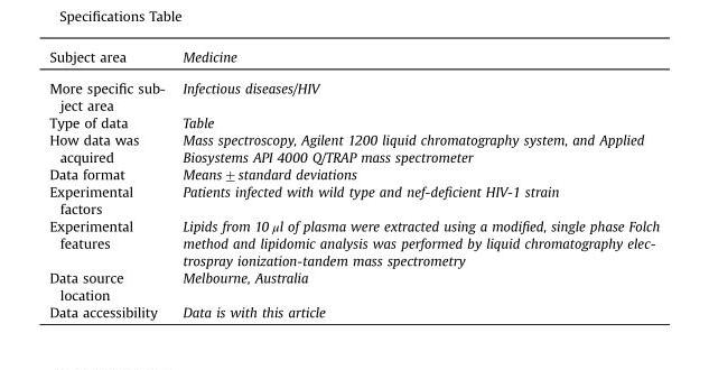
<table><thead><tr><td>Subject area</td><td>Medicine</td></tr></thead><tbody><tr><td>More specific sub- ject area</td><td>Infectious diseases/HIV</td></tr><tr><td>Type of data</td><td>Table</td></tr><tr><td>How data was acquired</td><td>Mass spectroscopy, Agilent 1200 liquid chromatography system, and Applied Biosystems API 4000 Q/TRAP mass spectrometer</td></tr><tr><td>Data format</td><td>Means±standard deviations</td></tr><tr><td>Experimental factors</td><td>Patients infected with wild type and nef-deficient HIV-1 strain</td></tr><tr><td>Experimental features</td><td>Lipids from 10 μl of plasma were extracted using a modified, single phase Folch method and lipidomic analysis was performed by liquid chromatography elec- trospray ionization-tandem mass spectrometry</td></tr><tr><td>Data source location</td><td>Melbourne, Australia</td></tr><tr><td>Data accessibility</td><td>Data is with this article</td></tr></tbody></table>